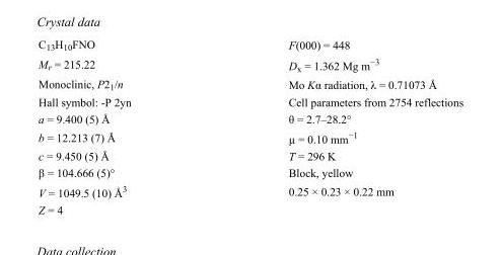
<table><tbody><tr><td>C<sub>13</sub>H<sub>10</sub>FNO</td><td>F(000) = 448</td></tr><tr><td>M<sub>r</sub> = 215.22</td><td>D<sub>x</sub> = 1.362 Mg m<sup>−3</sup></td></tr><tr><td>Monoclinic, P2<sub>1</sub>/n</td><td>Mo Kα radiation, λ = 0.71073 Å</td></tr><tr><td>Hall symbol: -P 2yn</td><td>Cell parameters from 2754 reflections</td></tr><tr><td>a = 9.400 (5) Å</td><td>θ = 2.7–28.2°</td></tr><tr><td>b = 12.213 (7) Å</td><td>µ = 0.10 mm<sup>−1</sup></td></tr><tr><td>c = 9.450 (5) Å</td><td>T = 296 K</td></tr><tr><td>β = 104.666 (5)°</td><td>Block, yellow</td></tr><tr><td>V = 1049.5 (10) Å<sup>3</sup></td><td>0.25 × 0.23 × 0.22 mm</td></tr><tr><td>Z = 4</td><td></td></tr></tbody></table>